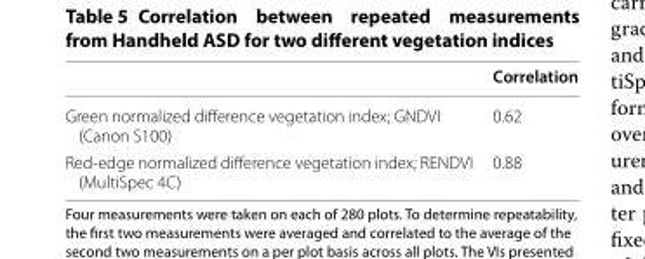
<table><thead><tr><td></td><td>Correlation</td></tr></thead><tbody><tr><td>Green normalized difference vegetation index; GNDVI (Canon S100)</td><td>0.62</td></tr><tr><td>Red‑edge normalized difference vegetation index; RENDVI (MultiSpec 4C)</td><td>0.88</td></tr></tbody></table>